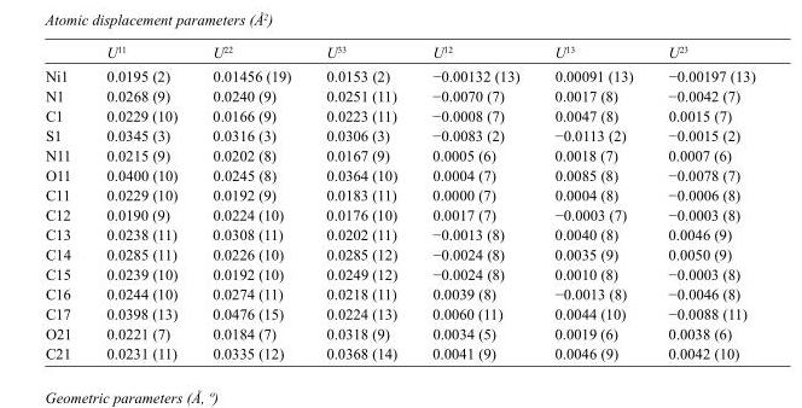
<table><thead><tr><td></td><td>U<sup>11</sup></td><td>U<sup>22</sup></td><td>U<sup>33</sup></td><td>U<sup>12</sup></td><td>U<sup>13</sup></td><td>U<sup>23</sup></td></tr></thead><tbody><tr><td>Ni1</td><td>0.0195 (2)</td><td>0.01456 (19)</td><td>0.0153 (2)</td><td>−0.00132 (13)</td><td>0.00091 (13)</td><td>−0.00197 (13)</td></tr><tr><td>N1</td><td>0.0268 (9)</td><td>0.0240 (9)</td><td>0.0251 (11)</td><td>−0.0070 (7)</td><td>0.0017 (8)</td><td>−0.0042 (7)</td></tr><tr><td>C1</td><td>0.0229 (10)</td><td>0.0166 (9)</td><td>0.0223 (11)</td><td>−0.0008 (7)</td><td>0.0047 (8)</td><td>0.0015 (7)</td></tr><tr><td>S1</td><td>0.0345 (3)</td><td>0.0316 (3)</td><td>0.0306 (3)</td><td>−0.0083 (2)</td><td>−0.0113 (2)</td><td>−0.0015 (2)</td></tr><tr><td>N11</td><td>0.0215 (9)</td><td>0.0202 (8)</td><td>0.0167 (9)</td><td>0.0005 (6)</td><td>0.0018 (7)</td><td>0.0007 (6)</td></tr><tr><td>O11</td><td>0.0400 (10)</td><td>0.0245 (8)</td><td>0.0364 (10)</td><td>0.0004 (7)</td><td>0.0085 (8)</td><td>−0.0078 (7)</td></tr><tr><td>C11</td><td>0.0229 (10)</td><td>0.0192 (9)</td><td>0.0183 (11)</td><td>0.0000 (7)</td><td>0.0004 (8)</td><td>−0.0006 (8)</td></tr><tr><td>C12</td><td>0.0190 (9)</td><td>0.0224 (10)</td><td>0.0176 (10)</td><td>0.0017 (7)</td><td>−0.0003 (7)</td><td>−0.0003 (8)</td></tr><tr><td>C13</td><td>0.0238 (11)</td><td>0.0308 (11)</td><td>0.0202 (11)</td><td>−0.0013 (8)</td><td>0.0040 (8)</td><td>0.0046 (9)</td></tr><tr><td>C14</td><td>0.0285 (11)</td><td>0.0226 (10)</td><td>0.0285 (12)</td><td>−0.0024 (8)</td><td>0.0035 (9)</td><td>0.0050 (9)</td></tr><tr><td>C15</td><td>0.0239 (10)</td><td>0.0192 (10)</td><td>0.0249 (12)</td><td>−0.0024 (8)</td><td>0.0010 (8)</td><td>−0.0003 (8)</td></tr><tr><td>C16</td><td>0.0244 (10)</td><td>0.0274 (11)</td><td>0.0218 (11)</td><td>0.0039 (8)</td><td>−0.0013 (8)</td><td>−0.0046 (8)</td></tr><tr><td>C17</td><td>0.0398 (13)</td><td>0.0476 (15)</td><td>0.0224 (13)</td><td>0.0060 (11)</td><td>0.0044 (10)</td><td>−0.0088 (11)</td></tr><tr><td>O21</td><td>0.0221 (7)</td><td>0.0184 (7)</td><td>0.0318 (9)</td><td>0.0034 (5)</td><td>0.0019 (6)</td><td>0.0038 (6)</td></tr><tr><td>C21</td><td>0.0231 (11)</td><td>0.0335 (12)</td><td>0.0368 (14)</td><td>0.0041 (9)</td><td>0.0046 (9)</td><td>0.0042 (10)</td></tr></tbody></table>